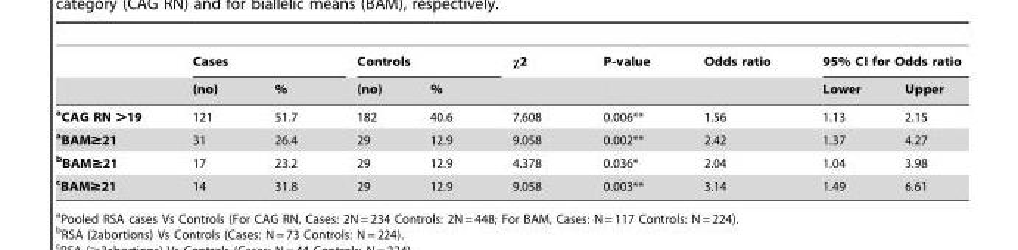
<table><thead><tr><td rowspan="2"></td><td colspan="2">Cases</td><td colspan="2">Controls</td><td rowspan="2">χ2</td><td rowspan="2">P-value</td><td rowspan="2">Odds ratio</td><td colspan="2">95% CI for Odds ratio</td></tr><tr><td>(no)</td><td>%</td><td>(no)</td><td>%</td><td>Lower</td><td>Upper</td></tr></thead><tbody><tr><td>aCAG RN &gt;19</td><td>121</td><td>51.7</td><td>182</td><td>40.6</td><td>7.608</td><td>0.006**</td><td>1.56</td><td>1.13</td><td>2.15</td></tr><tr><td>aBAM≥21</td><td>31</td><td>26.4</td><td>29</td><td>12.9</td><td>9.058</td><td>0.002**</td><td>2.42</td><td>1.37</td><td>4.27</td></tr><tr><td>bBAM≥21</td><td>17</td><td>23.2</td><td>29</td><td>12.9</td><td>4.378</td><td>0.036*</td><td>2.04</td><td>1.04</td><td>3.98</td></tr><tr><td>cBAM≥21</td><td>14</td><td>31.8</td><td>29</td><td>12.9</td><td>9.058</td><td>0.003**</td><td>3.14</td><td>1.49</td><td>6.61</td></tr></tbody></table>